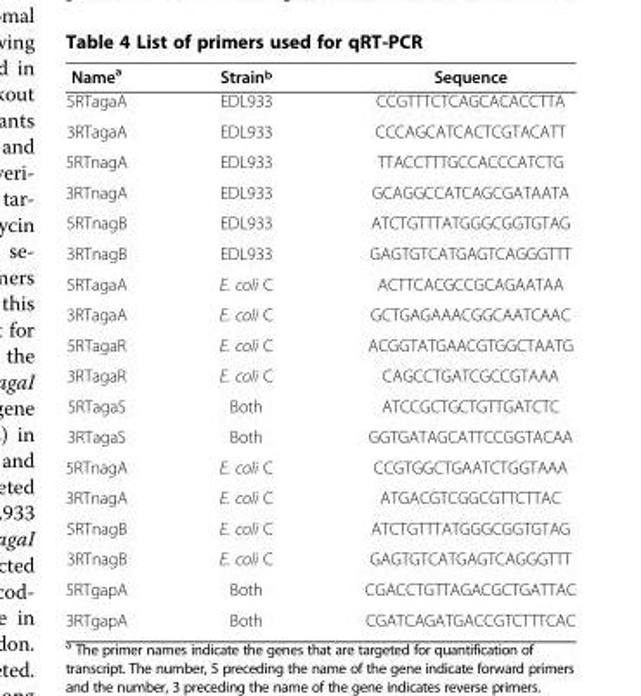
<table><thead><tr><td>Name<sup>a</sup></td><td>Strain<sup>b</sup></td><td>Sequence</td></tr></thead><tbody><tr><td>5RTagaA</td><td>EDL933</td><td>CCGTTTCTCAGCACACCTTA</td></tr><tr><td>3RTagaA</td><td>EDL933</td><td>CCCAGCATCACTCGTACATT</td></tr><tr><td>5RTnagA</td><td>EDL933</td><td>TTACCTTTGCCACCCATCTG</td></tr><tr><td>3RTnagA</td><td>EDL933</td><td>GCAGGCCATCAGCGATAATA</td></tr><tr><td>5RTnagB</td><td>EDL933</td><td>ATCTGTTTATGGGCGGTGTAG</td></tr><tr><td>3RTnagB</td><td>EDL933</td><td>GAGTGTCATGAGTCAGGGTTT</td></tr><tr><td>5RTagaA</td><td>E. coli C</td><td>ACTTCACGCCGCAGAATAA</td></tr><tr><td>3RTagaA</td><td>E. coli C</td><td>GCTGAGAAACGGCAATCAAC</td></tr><tr><td>5RTagaR</td><td>E. coli C</td><td>ACGGTATGAACGTGGCTAATG</td></tr><tr><td>3RTagaR</td><td>E. coli C</td><td>CAGCCTGATCGCCGTAAA</td></tr><tr><td>5RTagaS</td><td>Both</td><td>ATCCGCTGCTGTTGATCTC</td></tr><tr><td>3RTagaS</td><td>Both</td><td>GGTGATAGCATTCCGGTACAA</td></tr><tr><td>5RTnagA</td><td>E. coli C</td><td>CCGTGGCTGAATCTGGTAAA</td></tr><tr><td>3RTnagA</td><td>E. coli C</td><td>ATGACGTCGGCGTTCTTAC</td></tr><tr><td>5RTnagB</td><td>E. coli C</td><td>ATCTGTTTATGGGCGGTGTAG</td></tr><tr><td>3RTnagB</td><td>E. coli C</td><td>GAGTGTCATGAGTCAGGGTTT</td></tr><tr><td>5RTgapA</td><td>Both</td><td>CGACCTGTTAGACGCTGATTAC</td></tr><tr><td>3RTgapA</td><td>Both</td><td>CGATCAGATGACCGTCTTTCAC</td></tr></tbody></table>